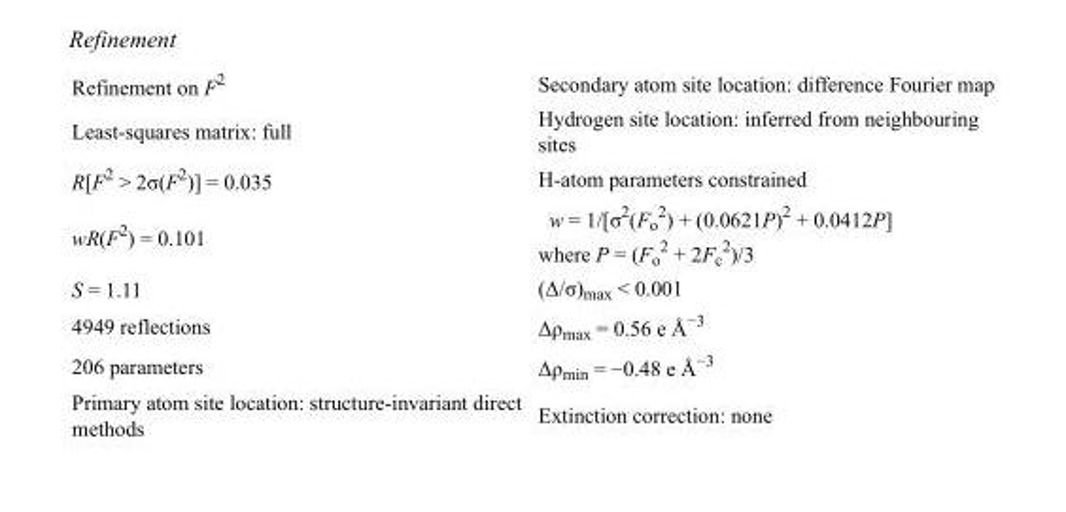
<table><tbody><tr><td>Refinement on F<sup>2</sup></td><td>Secondary atom site location: difference Fourier map</td></tr><tr><td>Least-squares matrix: full</td><td>Hydrogen site location: inferred from neighbouring sites</td></tr><tr><td>R[F<sup>2</sup> &gt; 2σ(F<sup>2</sup>)] = 0.035</td><td>H-atom parameters constrained</td></tr><tr><td>wR(F<sup>2</sup>) = 0.101</td><td>w = 1/[σ<sup>2</sup>(F<sub>o</sub> <sup>2</sup>) + (0.0621P)<sup>2</sup> + 0.0412P] where P = (F<sub>o</sub> <sup>2</sup> + 2F<sub>c</sub> <sup>2</sup>)/3</td></tr><tr><td>S = 1.11</td><td>(Δ/σ)<sub>max</sub> &lt; 0.001</td></tr><tr><td>4949 reflections</td><td>Δρ<sub>max</sub> = 0.56 e Å<sup>−3</sup></td></tr><tr><td>206 parameters</td><td>Δρ<sub>min</sub> = −0.48 e Å<sup>−3</sup></td></tr><tr><td>Primary atom site location: structure-invariant direct methods</td><td>Extinction correction: none</td></tr></tbody></table>